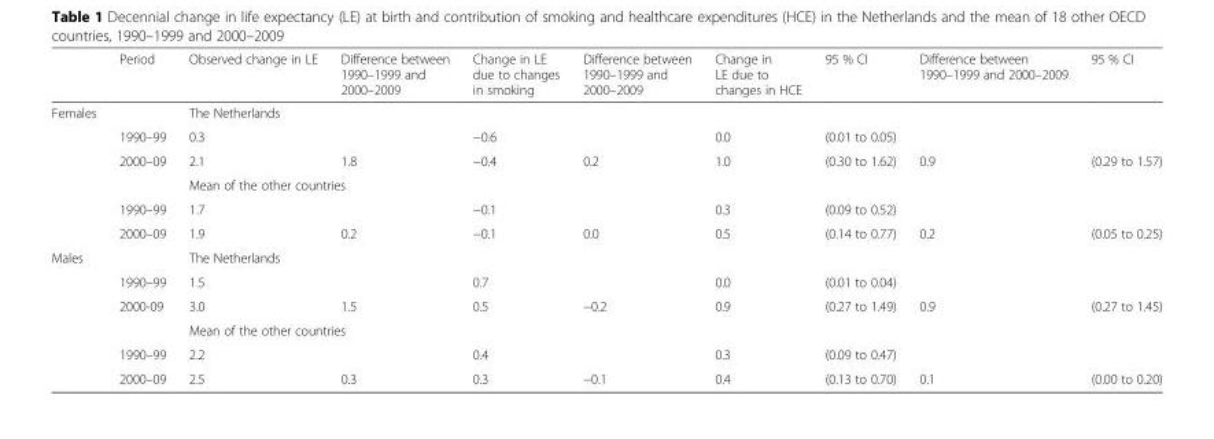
<table><thead><tr><td></td><td>Period</td><td>Observed change in LE</td><td>Difference between 1990–1999 and 2000–2009</td><td>Change in LE due to changes in smoking</td><td>Difference between 1990–1999 and 2000–2009</td><td>Change in LE due to changes in HCE</td><td>95 % CI</td><td>Difference between 1990–1999 and 2000–2009</td><td>95 % CI</td></tr></thead><tbody><tr><td rowspan="6">Females</td><td></td><td colspan="8">The Netherlands</td></tr><tr><td>1990–99</td><td>0.3</td><td></td><td>−0.6</td><td></td><td>0.0</td><td>(0.01 to 0.05)</td><td></td><td></td></tr><tr><td>2000–09</td><td>2.1</td><td>1.8</td><td>−0.4</td><td>0.2</td><td>1.0</td><td>(0.30 to 1.62)</td><td>0.9</td><td>(0.29 to 1.57)</td></tr><tr><td></td><td colspan="8">Mean of the other countries</td></tr><tr><td>1990–99</td><td>1.7</td><td></td><td>−0.1</td><td></td><td>0.3</td><td>(0.09 to 0.52)</td><td></td><td></td></tr><tr><td>2000–09</td><td>1.9</td><td>0.2</td><td>−0.1</td><td>0.0</td><td>0.5</td><td>(0.14 to 0.77)</td><td>0.2</td><td>(0.05 to 0.25)</td></tr><tr><td rowspan="6">Males</td><td></td><td colspan="8">The Netherlands</td></tr><tr><td>1990–99</td><td>1.5</td><td></td><td>0.7</td><td></td><td>0.0</td><td>(0.01 to 0.04)</td><td></td><td></td></tr><tr><td>2000-09</td><td>3.0</td><td>1.5</td><td>0.5</td><td>−0.2</td><td>0.9</td><td>(0.27 to 1.49)</td><td>0.9</td><td>(0.27 to 1.45)</td></tr><tr><td></td><td colspan="8">Mean of the other countries</td></tr><tr><td>1990–99</td><td>2.2</td><td></td><td>0.4</td><td></td><td>0.3</td><td>(0.09 to 0.47)</td><td></td><td></td></tr><tr><td>2000–09</td><td>2.5</td><td>0.3</td><td>0.3</td><td>−0.1</td><td>0.4</td><td>(0.13 to 0.70)</td><td>0.1</td><td>(0.00 to 0.20)</td></tr></tbody></table>